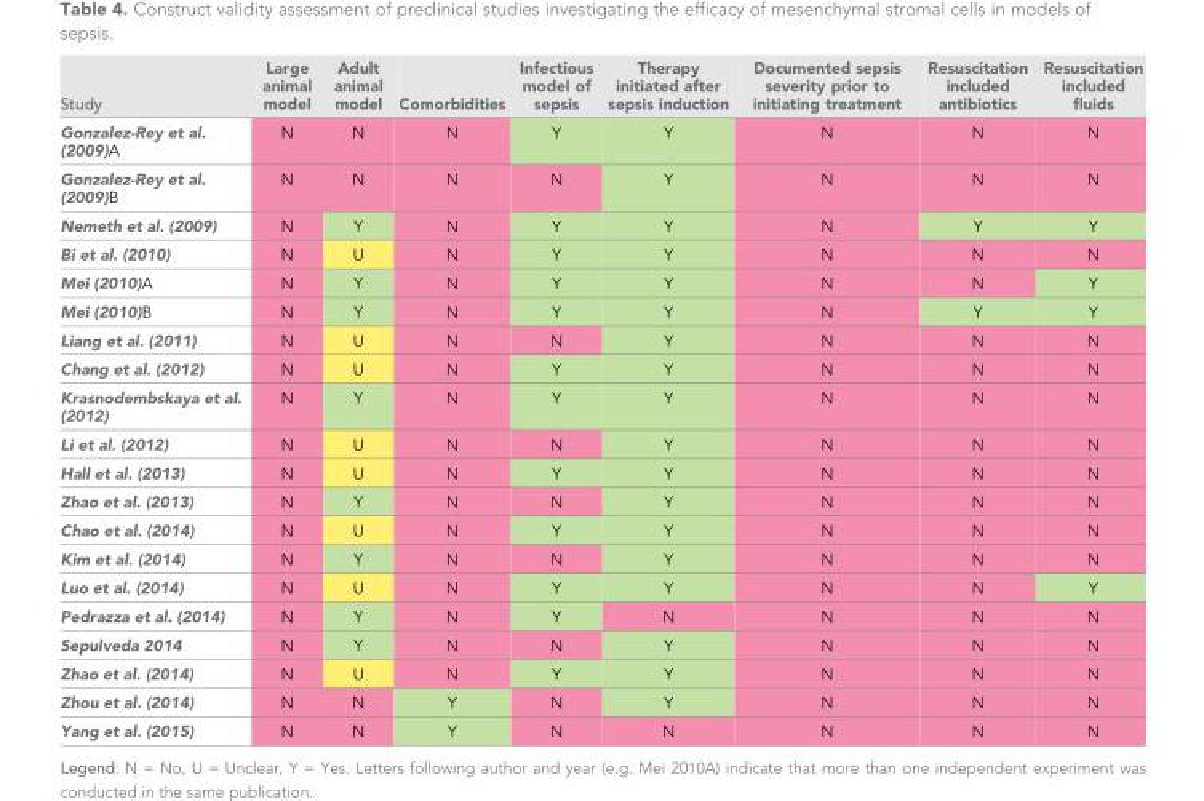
<table><thead><tr><td>Study</td><td>Large animal model</td><td>Adult animal model</td><td>Comorbidities</td><td>Infectious model of sepsis</td><td>Therapy initiated after sepsis induction</td><td>Documented sepsis severity prior to initiating treatment</td><td>Resuscitation included antibiotics</td><td>Resuscitation included fluids</td></tr></thead><tbody><tr><td>Gonzalez-Rey et al. (2009)A</td><td>N</td><td>N</td><td>N</td><td>Y</td><td>Y</td><td>N</td><td>N</td><td>N</td></tr><tr><td>Gonzalez-Rey et al. (2009)B</td><td>N</td><td>N</td><td>N</td><td>N</td><td>Y</td><td>N</td><td>N</td><td>N</td></tr><tr><td>Nemeth et al. (2009)</td><td>N</td><td>Y</td><td>N</td><td>Y</td><td>Y</td><td>N</td><td>Y</td><td>Y</td></tr><tr><td>Bi et al. (2010)</td><td>N</td><td>U</td><td>N</td><td>Y</td><td>Y</td><td>N</td><td>N</td><td>N</td></tr><tr><td>Mei (2010)A</td><td>N</td><td>Y</td><td>N</td><td>Y</td><td>Y</td><td>N</td><td>N</td><td>Y</td></tr><tr><td>Mei (2010)B</td><td>N</td><td>Y</td><td>N</td><td>Y</td><td>Y</td><td>N</td><td>Y</td><td>Y</td></tr><tr><td>Liang et al. (2011)</td><td>N</td><td>U</td><td>N</td><td>N</td><td>Y</td><td>N</td><td>N</td><td>N</td></tr><tr><td>Chang et al. (2012)</td><td>N</td><td>U</td><td>N</td><td>Y</td><td>Y</td><td>N</td><td>N</td><td>N</td></tr><tr><td>Krasnodembskaya et al. (2012)</td><td>N</td><td>Y</td><td>N</td><td>Y</td><td>Y</td><td>N</td><td>N</td><td>N</td></tr><tr><td>Li et al. (2012)</td><td>N</td><td>U</td><td>N</td><td>N</td><td>Y</td><td>N</td><td>N</td><td>N</td></tr><tr><td>Hall et al. (2013)</td><td>N</td><td>U</td><td>N</td><td>Y</td><td>Y</td><td>N</td><td>N</td><td>N</td></tr><tr><td>Zhao et al. (2013)</td><td>N</td><td>Y</td><td>N</td><td>N</td><td>Y</td><td>N</td><td>N</td><td>N</td></tr><tr><td>Chao et al. (2014)</td><td>N</td><td>U</td><td>N</td><td>Y</td><td>Y</td><td>N</td><td>N</td><td>N</td></tr><tr><td>Kim et al. (2014)</td><td>N</td><td>Y</td><td>N</td><td>N</td><td>Y</td><td>N</td><td>N</td><td>N</td></tr><tr><td>Luo et al. (2014)</td><td>N</td><td>U</td><td>N</td><td>Y</td><td>Y</td><td>N</td><td>N</td><td>Y</td></tr><tr><td>Pedrazza et al. (2014)</td><td>N</td><td>Y</td><td>N</td><td>Y</td><td>N</td><td>N</td><td>N</td><td>N</td></tr><tr><td>Sepulveda 2014</td><td>N</td><td>Y</td><td>N</td><td>N</td><td>Y</td><td>N</td><td>N</td><td>N</td></tr><tr><td>Zhao et al. (2014)</td><td>N</td><td>U</td><td>N</td><td>Y</td><td>Y</td><td>N</td><td>N</td><td>N</td></tr><tr><td>Zhou et al. (2014)</td><td>N</td><td>N</td><td>Y</td><td>N</td><td>Y</td><td>N</td><td>N</td><td>N</td></tr><tr><td>Yang et al. (2015)</td><td>N</td><td>N</td><td>Y</td><td>N</td><td>N</td><td>N</td><td>N</td><td>N</td></tr></tbody></table>